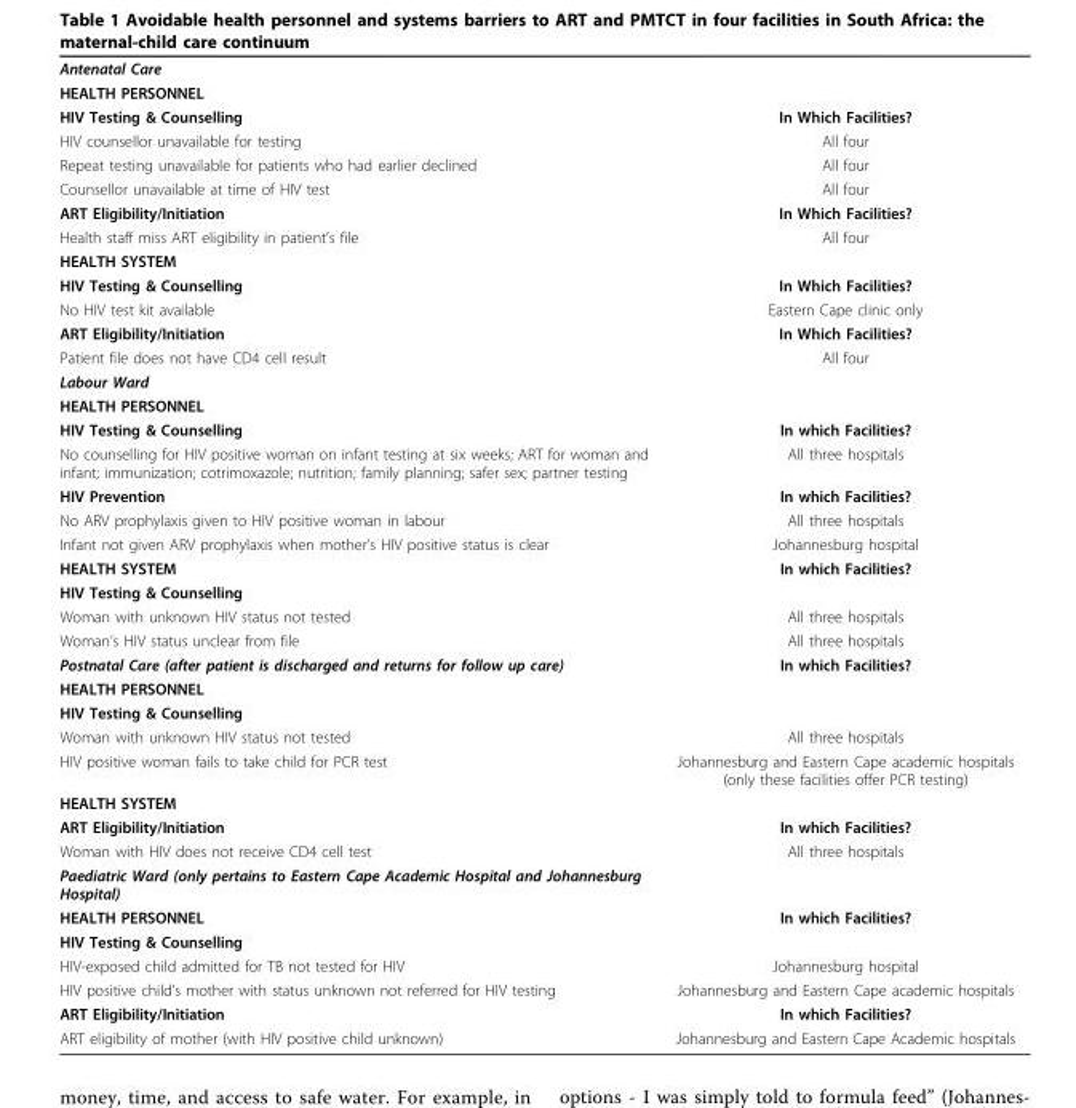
<table><tbody><tr><td colspan="2">Antenatal Care</td></tr><tr><td colspan="2">HEALTH PERSONNEL</td></tr><tr><td>HIV Testing &amp; Counselling</td><td>In Which Facilities?</td></tr><tr><td>HIV counsellor unavailable for testing</td><td>All four</td></tr><tr><td>Repeat testing unavailable for patients who had earlier declined</td><td>All four</td></tr><tr><td>Counsellor unavailable at time of HIV test</td><td>All four</td></tr><tr><td>ART Eligibility/Initiation</td><td>In Which Facilities?</td></tr><tr><td>Health staff miss ART eligibility in patient’s file</td><td>All four</td></tr><tr><td colspan="2">HEALTH SYSTEM</td></tr><tr><td>HIV Testing &amp; Counselling</td><td>In Which Facilities?</td></tr><tr><td>No HIV test kit available</td><td>Eastern Cape clinic only</td></tr><tr><td>ART Eligibility/Initiation</td><td>In Which Facilities?</td></tr><tr><td>Patient file does not have CD4 cell result</td><td>All four</td></tr><tr><td colspan="2">Labour Ward</td></tr><tr><td colspan="2">HEALTH PERSONNEL</td></tr><tr><td>HIV Testing &amp; Counselling</td><td>In which Facilities?</td></tr><tr><td>No counselling for HIV positive woman on infant testing at six weeks; ART for woman and infant; immunization; cotrimoxazole; nutrition; family planning; safer sex; partner testing</td><td>All three hospitals</td></tr><tr><td>HIV Prevention</td><td>In which Facilities?</td></tr><tr><td>No ARV prophylaxis given to HIV positive woman in labour</td><td>All three hospitals</td></tr><tr><td>Infant not given ARV prophylaxis when mother’s HIV positive status is clear</td><td>Johannesburg hospital</td></tr><tr><td>HEALTH SYSTEM</td><td>In which Facilities?</td></tr><tr><td colspan="2">HIV Testing &amp; Counselling</td></tr><tr><td>Woman with unknown HIV status not tested</td><td>All three hospitals</td></tr><tr><td>Woman’s HIV status unclear from file</td><td>All three hospitals</td></tr><tr><td>Postnatal Care (after patient is discharged and returns for follow up care)</td><td>In which Facilities?</td></tr><tr><td colspan="2">HEALTH PERSONNEL</td></tr><tr><td colspan="2">HIV Testing &amp; Counselling</td></tr><tr><td>Woman with unknown HIV status not tested</td><td>All three hospitals</td></tr><tr><td>HIV positive woman fails to take child for PCR test</td><td>Johannesburg and Eastern Cape academic hospitals (only these facilities offer PCR testing)</td></tr><tr><td colspan="2">HEALTH SYSTEM</td></tr><tr><td>ART Eligibility/Initiation</td><td>In which Facilities?</td></tr><tr><td>Woman with HIV does not receive CD4 cell test</td><td>All three hospitals</td></tr><tr><td colspan="2">Paediatric Ward (only pertains to Eastern Cape Academic Hospital and Johannesburg Hospital)</td></tr><tr><td>HEALTH PERSONNEL</td><td>In which Facilities?</td></tr><tr><td colspan="2">HIV Testing &amp; Counselling</td></tr><tr><td>HIV-exposed child admitted for TB not tested for HIV</td><td>Johannesburg hospital</td></tr><tr><td>HIV positive child’s mother with status unknown not referred for HIV testing</td><td>Johannesburg and Eastern Cape academic hospitals</td></tr><tr><td>ART Eligibility/Initiation</td><td>In which Facilities?</td></tr><tr><td>ART eligibility of mother (with HIV positive child unknown)</td><td>Johannesburg and Eastern Cape Academic hospitals</td></tr></tbody></table>